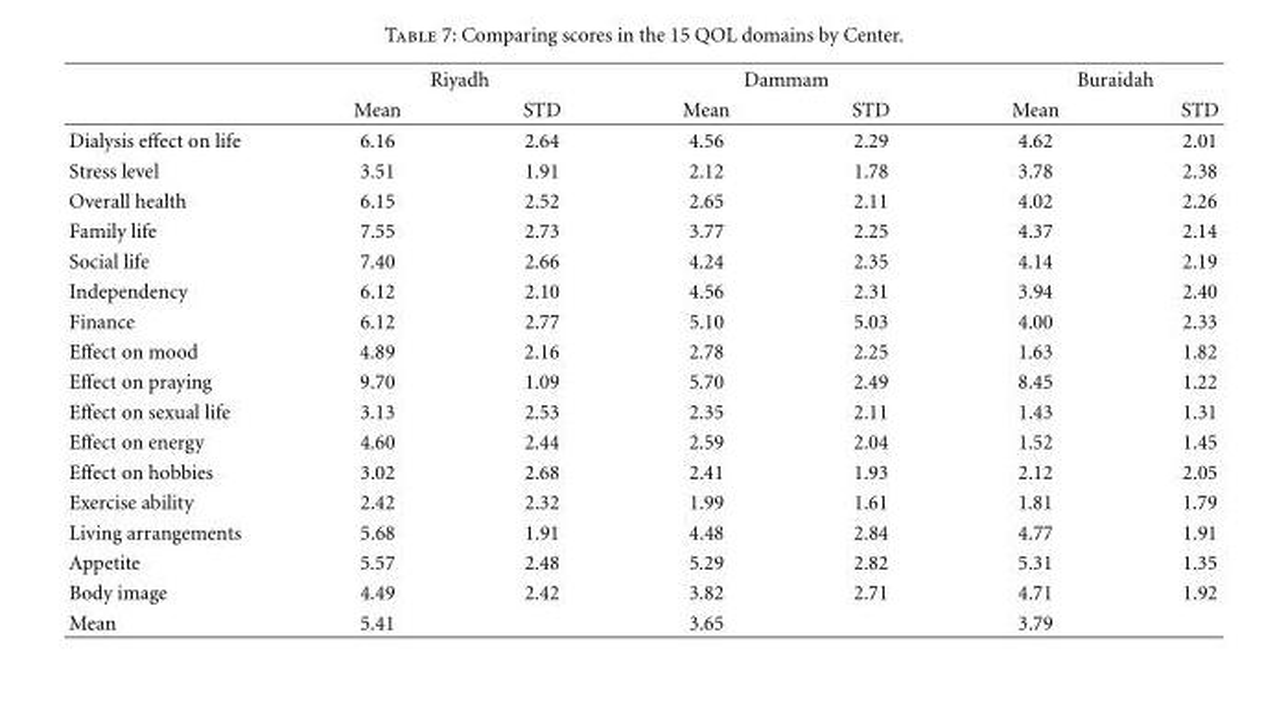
<table><thead><tr><td rowspan="2"></td><td colspan="2">Riyadh</td><td colspan="2">Dammam</td><td colspan="2">Buraidah</td></tr><tr><td>Mean</td><td>STD</td><td>Mean</td><td>STD</td><td>Mean</td><td>STD</td></tr></thead><tbody><tr><td>Dialysis effect on life</td><td>6.16</td><td>2.64</td><td>4.56</td><td>2.29</td><td>4.62</td><td>2.01</td></tr><tr><td>Stress level</td><td>3.51</td><td>1.91</td><td>2.12</td><td>1.78</td><td>3.78</td><td>2.38</td></tr><tr><td>Overall health</td><td>6.15</td><td>2.52</td><td>2.65</td><td>2.11</td><td>4.02</td><td>2.26</td></tr><tr><td>Family life</td><td>7.55</td><td>2.73</td><td>3.77</td><td>2.25</td><td>4.37</td><td>2.14</td></tr><tr><td>Social life</td><td>7.40</td><td>2.66</td><td>4.24</td><td>2.35</td><td>4.14</td><td>2.19</td></tr><tr><td>Independency</td><td>6.12</td><td>2.10</td><td>4.56</td><td>2.31</td><td>3.94</td><td>2.40</td></tr><tr><td>Finance</td><td>6.12</td><td>2.77</td><td>5.10</td><td>5.03</td><td>4.00</td><td>2.33</td></tr><tr><td>Effect on mood</td><td>4.89</td><td>2.16</td><td>2.78</td><td>2.25</td><td>1.63</td><td>1.82</td></tr><tr><td>Effect on praying</td><td>9.70</td><td>1.09</td><td>5.70</td><td>2.49</td><td>8.45</td><td>1.22</td></tr><tr><td>Effect on sexual life</td><td>3.13</td><td>2.53</td><td>2.35</td><td>2.11</td><td>1.43</td><td>1.31</td></tr><tr><td>Effect on energy</td><td>4.60</td><td>2.44</td><td>2.59</td><td>2.04</td><td>1.52</td><td>1.45</td></tr><tr><td>Effect on hobbies</td><td>3.02</td><td>2.68</td><td>2.41</td><td>1.93</td><td>2.12</td><td>2.05</td></tr><tr><td>Exercise ability</td><td>2.42</td><td>2.32</td><td>1.99</td><td>1.61</td><td>1.81</td><td>1.79</td></tr><tr><td>Living arrangements</td><td>5.68</td><td>1.91</td><td>4.48</td><td>2.84</td><td>4.77</td><td>1.91</td></tr><tr><td>Appetite</td><td>5.57</td><td>2.48</td><td>5.29</td><td>2.82</td><td>5.31</td><td>1.35</td></tr><tr><td>Body image</td><td>4.49</td><td>2.42</td><td>3.82</td><td>2.71</td><td>4.71</td><td>1.92</td></tr><tr><td>Mean</td><td>5.41</td><td></td><td>3.65</td><td></td><td>3.79</td><td></td></tr></tbody></table>